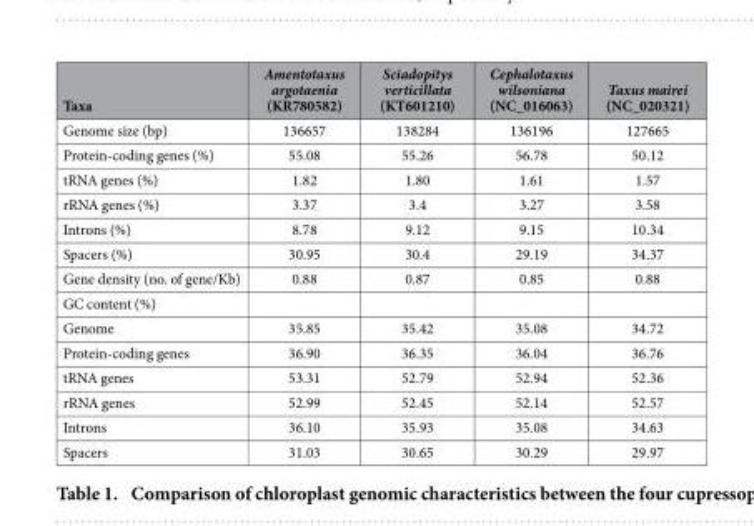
<table><thead><tr><td>Taxa</td><td>Amentotaxus argotaenia (KR780582)</td><td>Sciadopitys verticillata (KT601210)</td><td>Cephalotaxus wilsoniana (NC_016063)</td><td>Taxus mairei (NC_020321)</td></tr></thead><tbody><tr><td>Genome size (bp)</td><td>136657</td><td>138284</td><td>136196</td><td>127665</td></tr><tr><td>Protein-coding genes (%)</td><td>55.08</td><td>55.26</td><td>56.78</td><td>50.12</td></tr><tr><td>tRNA genes (%)</td><td>1.82</td><td>1.80</td><td>1.61</td><td>1.57</td></tr><tr><td>rRNA genes (%)</td><td>3.37</td><td>3.4</td><td>3.27</td><td>3.58</td></tr><tr><td>Introns (%)</td><td>8.78</td><td>9.12</td><td>9.15</td><td>10.34</td></tr><tr><td>Spacers (%)</td><td>30.95</td><td>30.4</td><td>29.19</td><td>34.37</td></tr><tr><td>Gene density (no. of gene/Kb)</td><td>0.88</td><td>0.87</td><td>0.85</td><td>0.88</td></tr><tr><td colspan="5">GC content (%)</td></tr><tr><td>Genome</td><td>35.85</td><td>35.42</td><td>35.08</td><td>34.72</td></tr><tr><td>Protein-coding genes</td><td>36.90</td><td>36.35</td><td>36.04</td><td>36.76</td></tr><tr><td>tRNA genes</td><td>53.31</td><td>52.79</td><td>52.94</td><td>52.36</td></tr><tr><td>rRNA genes</td><td>52.99</td><td>52.45</td><td>52.14</td><td>52.57</td></tr><tr><td>Introns</td><td>36.10</td><td>35.93</td><td>35.08</td><td>34.63</td></tr><tr><td>Spacers</td><td>31.03</td><td>30.65</td><td>30.29</td><td>29.97</td></tr></tbody></table>